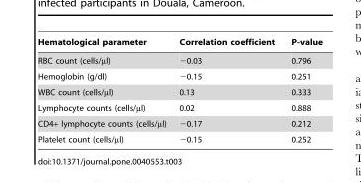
<table><thead><tr><td>Hematological parameter</td><td>Correlation coefficient</td><td>P-value</td></tr></thead><tbody><tr><td>RBC count (cells/µl)</td><td>−0.03</td><td>0.796</td></tr><tr><td>Hemoglobin (g/dl)</td><td>−0.15</td><td>0.251</td></tr><tr><td>WBC count (cells/µl)</td><td>0.13</td><td>0.333</td></tr><tr><td>Lymphocyte counts (cells/µl)</td><td>0.02</td><td>0.888</td></tr><tr><td>CD4+ lymphocyte counts (cells/µl)</td><td>−0.17</td><td>0.212</td></tr><tr><td>Platelet count (cells/µl)</td><td>−0.15</td><td>0.252</td></tr></tbody></table>